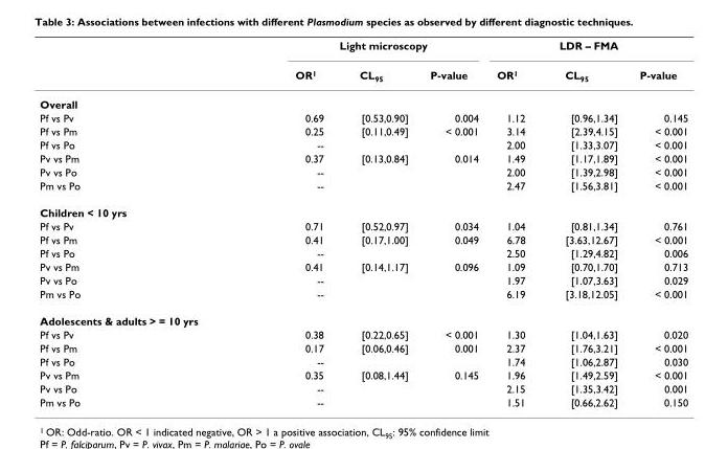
<table><thead><tr><td rowspan="2"></td><td colspan="3">Light microscopy</td><td colspan="3">LDR – FMA</td></tr><tr><td>OR<sup>1</sup></td><td>CL<sub>95</sub></td><td>P-value</td><td>OR<sup>1</sup></td><td>CL<sub>95</sub></td><td>P-value</td></tr></thead><tbody><tr><td colspan="7">Overall</td></tr><tr><td>Pf vs Pv</td><td>0.69</td><td>[0.53,0.90]</td><td>0.004</td><td>1.12</td><td>[0.96,1.34]</td><td>0.145</td></tr><tr><td>Pf vs Pm</td><td>0.25</td><td>[0.11,0.49]</td><td>&lt; 0.001</td><td>3.14</td><td>[2.39,4.15]</td><td>&lt; 0.001</td></tr><tr><td>Pf vs Po</td><td>--</td><td></td><td></td><td>2.00</td><td>[1.33,3.07]</td><td>&lt; 0.001</td></tr><tr><td>Pv vs Pm</td><td>0.37</td><td>[0.13,0.84]</td><td>0.014</td><td>1.49</td><td>[1.17,1.89]</td><td>&lt; 0.001</td></tr><tr><td>Pv vs Po</td><td>--</td><td></td><td></td><td>2.00</td><td>[1.39,2.98]</td><td>&lt; 0.001</td></tr><tr><td>Pm vs Po</td><td>--</td><td></td><td></td><td>2.47</td><td>[1.56,3.81]</td><td>&lt; 0.001</td></tr><tr><td colspan="7">Children &lt; 10 yrs</td></tr><tr><td>Pf vs Pv</td><td>0.71</td><td>[0.52,0.97]</td><td>0.034</td><td>1.04</td><td>[0.81,1.34]</td><td>0.761</td></tr><tr><td>Pf vs Pm</td><td>0.41</td><td>[0.17,1.00]</td><td>0.049</td><td>6.78</td><td>[3.63,12.67]</td><td>&lt; 0.001</td></tr><tr><td>Pf vs Po</td><td>--</td><td></td><td></td><td>2.50</td><td>[1.29,4.82]</td><td>0.006</td></tr><tr><td>Pv vs Pm</td><td>0.41</td><td>[0.14,1.17]</td><td>0.096</td><td>1.09</td><td>[0.70,1.70]</td><td>0.713</td></tr><tr><td>Pv vs Po</td><td>--</td><td></td><td></td><td>1.97</td><td>[1.07,3.63]</td><td>0.029</td></tr><tr><td>Pm vs Po</td><td>--</td><td></td><td></td><td>6.19</td><td>[3.18,12.05]</td><td>&lt; 0.001</td></tr><tr><td colspan="7">Adolescents &amp; adults &gt; = 10 yrs</td></tr><tr><td>Pf vs Pv</td><td>0.38</td><td>[0.22,0.65]</td><td>&lt; 0.001</td><td>1.30</td><td>[1.04,1.63]</td><td>0.020</td></tr><tr><td>Pf vs Pm</td><td>0.17</td><td>[0.06,0.46]</td><td>0.001</td><td>2.37</td><td>[1.76,3.21]</td><td>&lt; 0.001</td></tr><tr><td>Pf vs Po</td><td>--</td><td></td><td></td><td>1.74</td><td>[1.06,2.87]</td><td>0.030</td></tr><tr><td>Pv vs Pm</td><td>0.35</td><td>[0.08,1.44]</td><td>0.145</td><td>1.96</td><td>[1.49,2.59]</td><td>&lt; 0.001</td></tr><tr><td>Pv vs Po</td><td>--</td><td></td><td></td><td>2.15</td><td>[1.35,3.42]</td><td>0.001</td></tr><tr><td>Pm vs Po</td><td>--</td><td></td><td></td><td>1.51</td><td>[0.66,2.62]</td><td>0.150</td></tr></tbody></table>